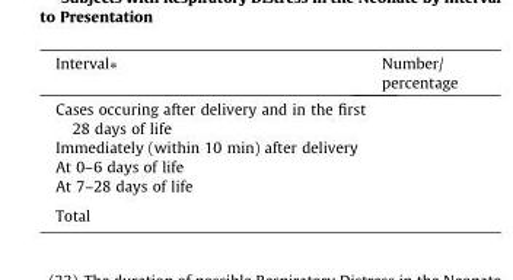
<table><thead><tr><td>Interval⁄</td><td>Number/ percentage</td></tr></thead><tbody><tr><td colspan="2">Cases occuring after delivery and in the first 28 days of life</td></tr><tr><td colspan="2">Immediately (within 10 min) after delivery</td></tr><tr><td colspan="2">At 0–6 days of life</td></tr><tr><td colspan="2">At 7–28 days of life</td></tr><tr><td>Total</td><td></td></tr></tbody></table>